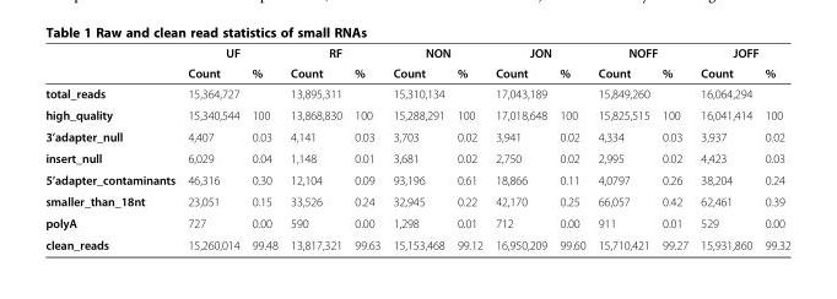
<table><thead><tr><td rowspan="2"></td><td colspan="2">UF</td><td colspan="2">RF</td><td colspan="2">NON</td><td colspan="2">JON</td><td colspan="2">NOFF</td><td colspan="2">JOFF</td></tr><tr><td>Count</td><td>%</td><td>Count</td><td>%</td><td>Count</td><td>%</td><td>Count</td><td>%</td><td>Count</td><td>%</td><td>Count</td><td>%</td></tr></thead><tbody><tr><td>total_reads</td><td>15,364,727</td><td></td><td>13,895,311</td><td></td><td>15,310,134</td><td></td><td>17,043,189</td><td></td><td>15,849,260</td><td></td><td>16,064,294</td><td></td></tr><tr><td>high_quality</td><td>15,340,544</td><td>100</td><td>13,868,830</td><td>100</td><td>15,288,291</td><td>100</td><td>17,018,648</td><td>100</td><td>15,825,515</td><td>100</td><td>16,041,414</td><td>100</td></tr><tr><td>3’adapter_null</td><td>4,407</td><td>0.03</td><td>4,141</td><td>0.03</td><td>3,703</td><td>0.02</td><td>3,941</td><td>0.02</td><td>4,334</td><td>0.03</td><td>3,937</td><td>0.02</td></tr><tr><td>insert_null</td><td>6,029</td><td>0.04</td><td>1,148</td><td>0.01</td><td>3,681</td><td>0.02</td><td>2,750</td><td>0.02</td><td>2,995</td><td>0.02</td><td>4,423</td><td>0.03</td></tr><tr><td>5’adapter_contaminants</td><td>46,316</td><td>0.30</td><td>12,104</td><td>0.09</td><td>93,196</td><td>0.61</td><td>18,866</td><td>0.11</td><td>4,0797</td><td>0.26</td><td>38,204</td><td>0.24</td></tr><tr><td>smaller_than_18nt</td><td>23,051</td><td>0.15</td><td>33,526</td><td>0.24</td><td>32,945</td><td>0.22</td><td>42,170</td><td>0.25</td><td>66,057</td><td>0.42</td><td>62,461</td><td>0.39</td></tr><tr><td>polyA</td><td>727</td><td>0.00</td><td>590</td><td>0.00</td><td>1,298</td><td>0.01</td><td>712</td><td>0.00</td><td>911</td><td>0.01</td><td>529</td><td>0.00</td></tr><tr><td>clean_reads</td><td>15,260,014</td><td>99.48</td><td>13,817,321</td><td>99.63</td><td>15,153,468</td><td>99.12</td><td>16,950,209</td><td>99.60</td><td>15,710,421</td><td>99.27</td><td>15,931,860</td><td>99.32</td></tr></tbody></table>